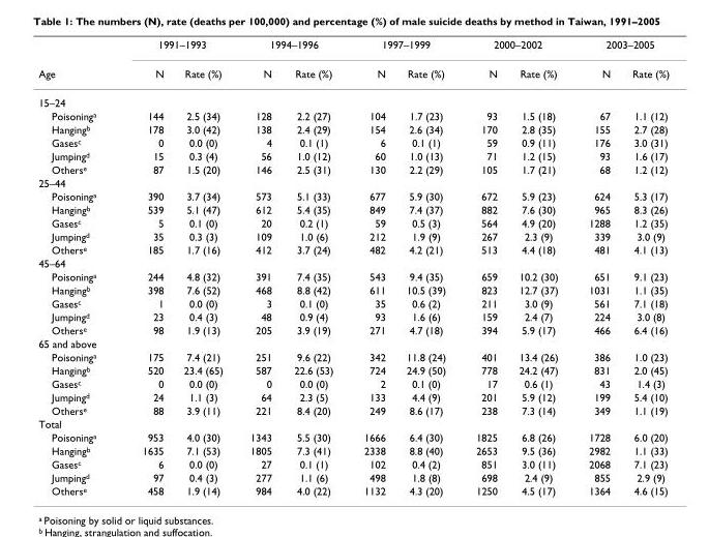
<table><thead><tr><td rowspan="2">Age</td><td colspan="2">1991–1993</td><td colspan="2">1994–1996</td><td colspan="2">1997–1999</td><td colspan="2">2000–2002</td><td colspan="2">2003–2005</td></tr><tr><td>N</td><td>Rate (%)</td><td>N</td><td>Rate (%)</td><td>N</td><td>Rate (%)</td><td>N</td><td>Rate (%)</td><td>N</td><td>Rate (%)</td></tr></thead><tbody><tr><td colspan="11">15–24</td></tr><tr><td>Poisoning<sup>a</sup></td><td>144</td><td>2.5 (34)</td><td>128</td><td>2.2 (27)</td><td>104</td><td>1.7 (23)</td><td>93</td><td>1.5 (18)</td><td>67</td><td>1.1 (12)</td></tr><tr><td>Hanging<sup>b</sup></td><td>178</td><td>3.0 (42)</td><td>138</td><td>2.4 (29)</td><td>154</td><td>2.6 (34)</td><td>170</td><td>2.8 (35)</td><td>155</td><td>2.7 (28)</td></tr><tr><td>Gases<sup>c</sup></td><td>0</td><td>0.0 (0)</td><td>4</td><td>0.1 (1)</td><td>6</td><td>0.1 (1)</td><td>59</td><td>0.9 (11)</td><td>176</td><td>3.0 (31)</td></tr><tr><td>Jumping<sup>d</sup></td><td>15</td><td>0.3 (4)</td><td>56</td><td>1.0 (12)</td><td>60</td><td>1.0 (13)</td><td>71</td><td>1.2 (15)</td><td>93</td><td>1.6 (17)</td></tr><tr><td>Others<sup>e</sup></td><td>87</td><td>1.5 (20)</td><td>146</td><td>2.5 (31)</td><td>130</td><td>2.2 (29)</td><td>105</td><td>1.7 (21)</td><td>68</td><td>1.2 (12)</td></tr><tr><td colspan="11">25–44</td></tr><tr><td>Poisoning<sup>a</sup></td><td>390</td><td>3.7 (34)</td><td>573</td><td>5.1 (33)</td><td>677</td><td>5.9 (30)</td><td>672</td><td>5.9 (23)</td><td>624</td><td>5.3 (17)</td></tr><tr><td>Hanging<sup>b</sup></td><td>539</td><td>5.1 (47)</td><td>612</td><td>5.4 (35)</td><td>849</td><td>7.4 (37)</td><td>882</td><td>7.6 (30)</td><td>965</td><td>8.3 (26)</td></tr><tr><td>Gases<sup>c</sup></td><td>5</td><td>0.1 (0)</td><td>20</td><td>0.2 (1)</td><td>59</td><td>0.5 (3)</td><td>564</td><td>4.9 (20)</td><td>1288</td><td>1.2 (35)</td></tr><tr><td>Jumping<sup>d</sup></td><td>35</td><td>0.3 (3)</td><td>109</td><td>1.0 (6)</td><td>212</td><td>1.9 (9)</td><td>267</td><td>2.3 (9)</td><td>339</td><td>3.0 (9)</td></tr><tr><td>Others<sup>e</sup></td><td>185</td><td>1.7 (16)</td><td>412</td><td>3.7 (24)</td><td>482</td><td>4.2 (21)</td><td>513</td><td>4.4 (18)</td><td>481</td><td>4.1 (13)</td></tr><tr><td colspan="11">45–64</td></tr><tr><td>Poisoning<sup>a</sup></td><td>244</td><td>4.8 (32)</td><td>391</td><td>7.4 (35)</td><td>543</td><td>9.4 (35)</td><td>659</td><td>10.2 (30)</td><td>651</td><td>9.1 (23)</td></tr><tr><td>Hanging<sup>b</sup></td><td>398</td><td>7.6 (52)</td><td>468</td><td>8.8 (42)</td><td>611</td><td>10.5 (39)</td><td>823</td><td>12.7 (37)</td><td>1031</td><td>1.1 (35)</td></tr><tr><td>Gases<sup>c</sup></td><td>1</td><td>0.0 (0)</td><td>3</td><td>0.1 (0)</td><td>35</td><td>0.6 (2)</td><td>211</td><td>3.0 (9)</td><td>561</td><td>7.1 (18)</td></tr><tr><td>Jumping<sup>d</sup></td><td>23</td><td>0.4 (3)</td><td>48</td><td>0.9 (4)</td><td>93</td><td>1.6 (6)</td><td>159</td><td>2.4 (7)</td><td>224</td><td>3.0 (8)</td></tr><tr><td>Others<sup>e</sup></td><td>98</td><td>1.9 (13)</td><td>205</td><td>3.9 (19)</td><td>271</td><td>4.7 (18)</td><td>394</td><td>5.9 (17)</td><td>466</td><td>6.4 (16)</td></tr><tr><td colspan="11">65 and above</td></tr><tr><td>Poisoning<sup>a</sup></td><td>175</td><td>7.4 (21)</td><td>251</td><td>9.6 (22)</td><td>342</td><td>11.8 (24)</td><td>401</td><td>13.4 (26)</td><td>386</td><td>1.0 (23)</td></tr><tr><td>Hanging<sup>b</sup></td><td>520</td><td>23.4 (65)</td><td>587</td><td>22.6 (53)</td><td>724</td><td>24.9 (50)</td><td>778</td><td>24.2 (47)</td><td>831</td><td>2.0 (45)</td></tr><tr><td>Gases<sup>c</sup></td><td>0</td><td>0.0 (0)</td><td>0</td><td>0.0 (0)</td><td>2</td><td>0.1 (0)</td><td>17</td><td>0.6 (1)</td><td>43</td><td>1.4 (3)</td></tr><tr><td>Jumping<sup>d</sup></td><td>24</td><td>1.1 (3)</td><td>64</td><td>2.3 (5)</td><td>133</td><td>4.4 (9)</td><td>201</td><td>5.9 (12)</td><td>199</td><td>5.4 (10)</td></tr><tr><td>Others<sup>e</sup></td><td>88</td><td>3.9 (11)</td><td>221</td><td>8.4 (20)</td><td>249</td><td>8.6 (17)</td><td>238</td><td>7.3 (14)</td><td>349</td><td>1.1 (19)</td></tr><tr><td colspan="11">Total</td></tr><tr><td>Poisoning<sup>a</sup></td><td>953</td><td>4.0 (30)</td><td>1343</td><td>5.5 (30)</td><td>1666</td><td>6.4 (30)</td><td>1825</td><td>6.8 (26)</td><td>1728</td><td>6.0 (20)</td></tr><tr><td>Hanging<sup>b</sup></td><td>1635</td><td>7.1 (53)</td><td>1805</td><td>7.3 (41)</td><td>2338</td><td>8.8 (40)</td><td>2653</td><td>9.5 (36)</td><td>2982</td><td>1.1 (33)</td></tr><tr><td>Gases<sup>c</sup></td><td>6</td><td>0.0 (0)</td><td>27</td><td>0.1 (1)</td><td>102</td><td>0.4 (2)</td><td>851</td><td>3.0 (11)</td><td>2068</td><td>7.1 (23)</td></tr><tr><td>Jumping<sup>d</sup></td><td>97</td><td>0.4 (3)</td><td>277</td><td>1.1 (6)</td><td>498</td><td>1.8 (8)</td><td>698</td><td>2.4 (9)</td><td>855</td><td>2.9 (9)</td></tr><tr><td>Others<sup>e</sup></td><td>458</td><td>1.9 (14)</td><td>984</td><td>4.0 (22)</td><td>1132</td><td>4.3 (20)</td><td>1250</td><td>4.5 (17)</td><td>1364</td><td>4.6 (15)</td></tr></tbody></table>